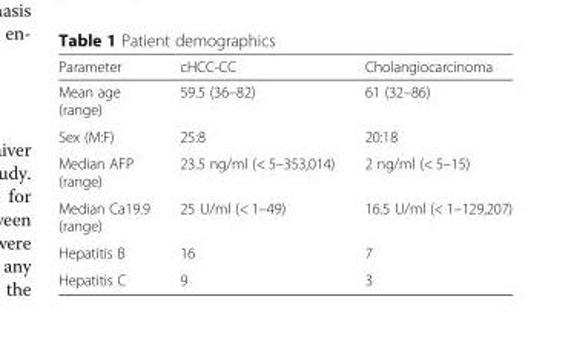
<table><thead><tr><td>Parameter</td><td>cHCC-CC</td><td>Cholangiocarcinoma</td></tr></thead><tbody><tr><td>Mean age (range)</td><td>59.5 (36–82)</td><td>61 (32–86)</td></tr><tr><td>Sex (M:F)</td><td>25:8</td><td>20:18</td></tr><tr><td>Median AFP (range)</td><td>23.5 ng/ml (&lt; 5–353,014)</td><td>2 ng/ml (&lt; 5–15)</td></tr><tr><td>Median Ca19.9 (range)</td><td>25 U/ml (&lt; 1–49)</td><td>16.5 U/ml (&lt; 1–129,207)</td></tr><tr><td>Hepatitis B</td><td>16</td><td>7</td></tr><tr><td>Hepatitis C</td><td>9</td><td>3</td></tr></tbody></table>